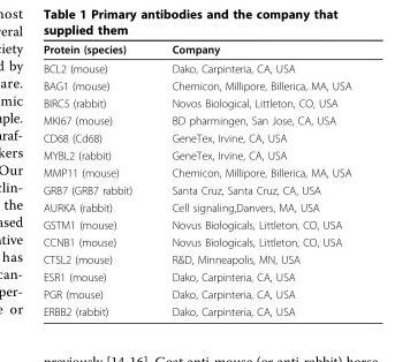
<table><thead><tr><td>Protein (species)</td><td>Company</td></tr></thead><tbody><tr><td>BCL2 (mouse)</td><td>Dako, Carpinteria, CA, USA</td></tr><tr><td>BAG1 (mouse)</td><td>Chemicon, Millipore, Billerica, MA, USA</td></tr><tr><td>BIRC5 (rabbit)</td><td>Novos Biological, Littleton, CO, USA</td></tr><tr><td>MKI67 (mouse)</td><td>BD pharmingen, San Jose, CA, USA</td></tr><tr><td>CD68 (Cd68)</td><td>GeneTex, Irvine, CA, USA</td></tr><tr><td>MYBL2 (rabbit)</td><td>GeneTex, Irvine, CA, USA</td></tr><tr><td>MMP11 (mouse)</td><td>Chemicon, Millipore, Billerica, MA, USA</td></tr><tr><td>GRB7 (GRB7 rabbit)</td><td>Santa Cruz, Santa Cruz, CA, USA</td></tr><tr><td>AURKA (rabbit)</td><td>Cell signaling,Danvers, MA, USA</td></tr><tr><td>GSTM1 (mouse)</td><td>Novus Biologicals, Littleton, CO, USA</td></tr><tr><td>CCNB1 (mouse)</td><td>Novus Biologicals, Littleton, CO, USA</td></tr><tr><td>CTSL2 (mouse)</td><td>R&amp;D, Minneapolis, MN, USA</td></tr><tr><td>ESR1 (mouse)</td><td>Dako, Carpinteria, CA, USA</td></tr><tr><td>PGR (mouse)</td><td>Dako, Carpinteria, CA, USA</td></tr><tr><td>ERBB2 (rabbit)</td><td>Dako, Carpinteria, CA, USA</td></tr></tbody></table>